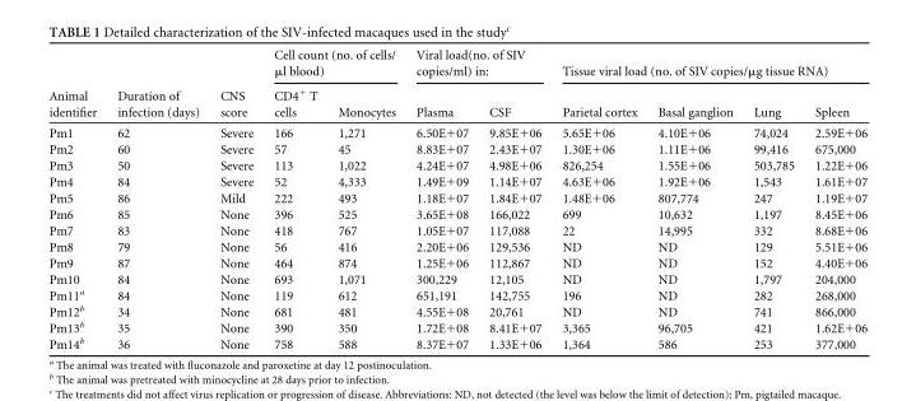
<table><thead><tr><td rowspan="2">Animal identifier</td><td rowspan="2">Duration of infection (days)</td><td rowspan="2">CNS score</td><td colspan="2">Cell count (no. of cells/ μl blood)</td><td colspan="2">Viral load(no. of SIV copies/ml) in:</td><td colspan="4">Tissue viral load (no. of SIV copies/μg tissue RNA)</td></tr><tr><td>CD4<sup>+</sup> T cells</td><td>Monocytes</td><td>Plasma</td><td>CSF</td><td>Parietal cortex</td><td>Basal ganglion</td><td>Lung</td><td>Spleen</td></tr></thead><tbody><tr><td>Pm1</td><td>62</td><td>Severe</td><td>166</td><td>1,271</td><td>6.50E+07</td><td>9.85E+06</td><td>5.65E+06</td><td>4.10E+06</td><td>74,024</td><td>2.59E+06</td></tr><tr><td>Pm2</td><td>60</td><td>Severe</td><td>57</td><td>45</td><td>8.83E+07</td><td>2.43E+07</td><td>1.30E+06</td><td>1.11E+06</td><td>99,416</td><td>675,000</td></tr><tr><td>Pm3</td><td>50</td><td>Severe</td><td>113</td><td>1,022</td><td>4.24E+07</td><td>4.98E+06</td><td>826,254</td><td>1.55E+06</td><td>503,785</td><td>1.22E+06</td></tr><tr><td>Pm4</td><td>84</td><td>Severe</td><td>52</td><td>4,333</td><td>1.49E+09</td><td>1.14E+07</td><td>4.63E+06</td><td>1.92E+06</td><td>1,543</td><td>1.61E+07</td></tr><tr><td>Pm5</td><td>86</td><td>Mild</td><td>222</td><td>493</td><td>1.18E+07</td><td>1.84E+07</td><td>1.48E+06</td><td>807,774</td><td>247</td><td>1.19E+07</td></tr><tr><td>Pm6</td><td>85</td><td>None</td><td>396</td><td>525</td><td>3.65E+08</td><td>166,022</td><td>699</td><td>10,632</td><td>1,197</td><td>8.45E+06</td></tr><tr><td>Pm7</td><td>83</td><td>None</td><td>418</td><td>767</td><td>1.05E+07</td><td>117,088</td><td>22</td><td>14,995</td><td>332</td><td>8.68E+06</td></tr><tr><td>Pm8</td><td>79</td><td>None</td><td>56</td><td>416</td><td>2.20E+06</td><td>129,536</td><td>ND</td><td>ND</td><td>129</td><td>5.51E+06</td></tr><tr><td>Pm9</td><td>87</td><td>None</td><td>464</td><td>874</td><td>1.25E+06</td><td>112,867</td><td>ND</td><td>ND</td><td>152</td><td>4.40E+06</td></tr><tr><td>Pm10</td><td>84</td><td>None</td><td>693</td><td>1,071</td><td>300,229</td><td>12,105</td><td>ND</td><td>ND</td><td>1,797</td><td>204,000</td></tr><tr><td>Pm11<sup>a</sup></td><td>84</td><td>None</td><td>119</td><td>612</td><td>651,191</td><td>142,755</td><td>196</td><td>ND</td><td>282</td><td>268,000</td></tr><tr><td>Pm12<sup>b</sup></td><td>34</td><td>None</td><td>681</td><td>481</td><td>4.55E+08</td><td>20,761</td><td>ND</td><td>ND</td><td>741</td><td>866,000</td></tr><tr><td>Pm13<sup>b</sup></td><td>35</td><td>None</td><td>390</td><td>350</td><td>1.72E+08</td><td>8.41E+07</td><td>3,365</td><td>96,705</td><td>421</td><td>1.62E+06</td></tr><tr><td>Pm14<sup>b</sup></td><td>36</td><td>None</td><td>758</td><td>588</td><td>8.37E+07</td><td>1.33E+06</td><td>1,364</td><td>586</td><td>253</td><td>377,000</td></tr></tbody></table>